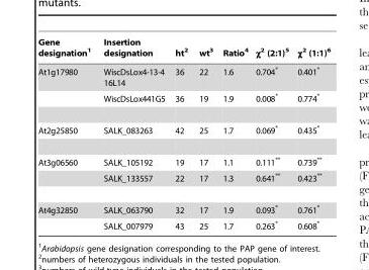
<table><thead><tr><td>Gene designation<sup>1</sup></td><td>Insertion designation</td><td>ht<sup>2</sup></td><td>wt<sup>3</sup></td><td>Ratio<sup>4</sup></td><td>χ2 (2:1)5</td><td>χ2 (1:1)6</td></tr></thead><tbody><tr><td rowspan="2">At1g17980</td><td>WiscDsLox4-13-4 16L14</td><td>36</td><td>22</td><td>1.6</td><td>0.704*</td><td>0.401*</td></tr><tr><td>WiscDsLox441G5</td><td>36</td><td>19</td><td>1.9</td><td>0.008*</td><td>0.774*</td></tr><tr><td>At2g25850</td><td>SALK_083263</td><td>42</td><td>25</td><td>1.7</td><td>0.069*</td><td>0.435*</td></tr><tr><td rowspan="2">At3g06560</td><td>SALK_105192</td><td>19</td><td>17</td><td>1.1</td><td>0.111**</td><td>0.739**</td></tr><tr><td>SALK_133557</td><td>22</td><td>17</td><td>1.3</td><td>0.641**</td><td>0.423**</td></tr><tr><td rowspan="2">At4g32850</td><td>SALK_063790</td><td>32</td><td>17</td><td>1.9</td><td>0.093*</td><td>0.761*</td></tr><tr><td>SALK_007979</td><td>43</td><td>25</td><td>1.7</td><td>0.263*</td><td>0.608*</td></tr></tbody></table>